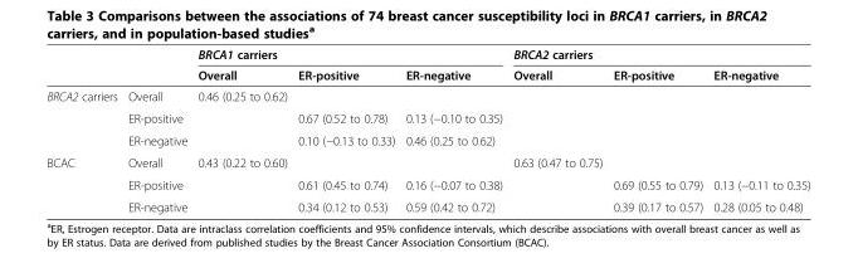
<table><thead><tr><td rowspan="2"></td><td rowspan="2"></td><td colspan="3">BRCA1 carriers</td><td colspan="3">BRCA2 carriers</td></tr><tr><td>Overall</td><td>ER-positive</td><td>ER-negative</td><td>Overall</td><td>ER-positive</td><td>ER-negative</td></tr></thead><tbody><tr><td rowspan="3">BRCA2 carriers</td><td>Overall</td><td>0.46 (0.25 to 0.62)</td><td></td><td></td><td></td><td></td><td></td></tr><tr><td>ER-positive</td><td></td><td>0.67 (0.52 to 0.78)</td><td>0.13 (−0.10 to 0.35)</td><td></td><td></td><td></td></tr><tr><td>ER-negative</td><td></td><td>0.10 (−0.13 to 0.33)</td><td>0.46 (0.25 to 0.62)</td><td></td><td></td><td></td></tr><tr><td rowspan="3">BCAC</td><td>Overall</td><td>0.43 (0.22 to 0.60)</td><td></td><td></td><td>0.63 (0.47 to 0.75)</td><td></td><td></td></tr><tr><td>ER-positive</td><td></td><td>0.61 (0.45 to 0.74)</td><td>0.16 (−0.07 to 0.38)</td><td></td><td>0.69 (0.55 to 0.79)</td><td>0.13 (−0.11 to 0.35)</td></tr><tr><td>ER-negative</td><td></td><td>0.34 (0.12 to 0.53)</td><td>0.59 (0.42 to 0.72)</td><td></td><td>0.39 (0.17 to 0.57)</td><td>0.28 (0.05 to 0.48)</td></tr></tbody></table>